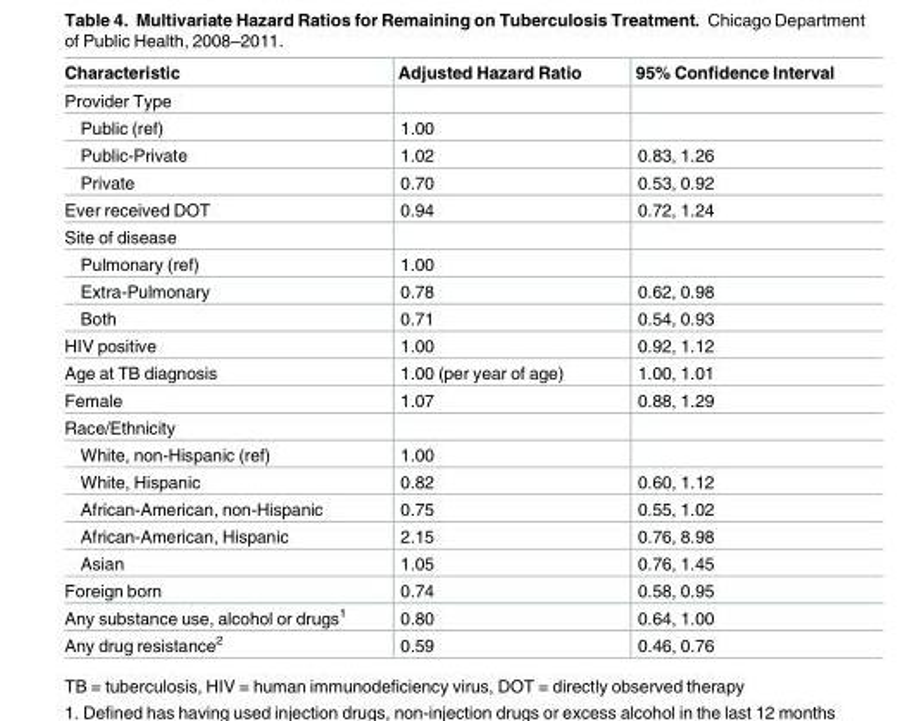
<table><thead><tr><td>Characteristic</td><td>Adjusted Hazard Ratio</td><td>95% Confidence Interval</td></tr></thead><tbody><tr><td colspan="3">Provider Type</td></tr><tr><td>Public (ref)</td><td>1.00</td><td></td></tr><tr><td>Public-Private</td><td>1.02</td><td>0.83, 1.26</td></tr><tr><td>Private</td><td>0.70</td><td>0.53, 0.92</td></tr><tr><td>Ever received DOT</td><td>0.94</td><td>0.72, 1.24</td></tr><tr><td colspan="3">Site of disease</td></tr><tr><td>Pulmonary (ref)</td><td>1.00</td><td></td></tr><tr><td>Extra-Pulmonary</td><td>0.78</td><td>0.62, 0.98</td></tr><tr><td>Both</td><td>0.71</td><td>0.54, 0.93</td></tr><tr><td>HIV positive</td><td>1.00</td><td>0.92, 1.12</td></tr><tr><td>Age at TB diagnosis</td><td>1.00 (per year of age)</td><td>1.00, 1.01</td></tr><tr><td>Female</td><td>1.07</td><td>0.88, 1.29</td></tr><tr><td colspan="3">Race/Ethnicity</td></tr><tr><td>White, non-Hispanic (ref)</td><td>1.00</td><td></td></tr><tr><td>White, Hispanic</td><td>0.82</td><td>0.60, 1.12</td></tr><tr><td>African-American, non-Hispanic</td><td>0.75</td><td>0.55, 1.02</td></tr><tr><td>African-American, Hispanic</td><td>2.15</td><td>0.76, 8.98</td></tr><tr><td>Asian</td><td>1.05</td><td>0.76, 1.45</td></tr><tr><td>Foreign born</td><td>0.74</td><td>0.58, 0.95</td></tr><tr><td>Any substance use, alcohol or drugs<sup>1</sup></td><td>0.80</td><td>0.64, 1.00</td></tr><tr><td>Any drug resistance<sup>2</sup></td><td>0.59</td><td>0.46, 0.76</td></tr></tbody></table>